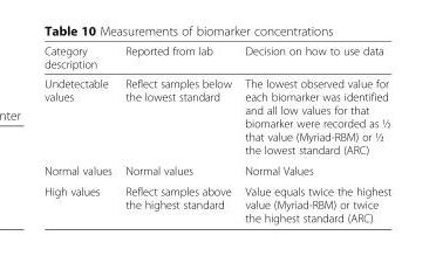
<table><thead><tr><td>Category description</td><td>Reported from lab</td><td>Decision on how to use data</td></tr></thead><tbody><tr><td>Undetectable values</td><td>Reflect samples below the lowest standard</td><td>The lowest observed value for each biomarker was identified and all low values for that biomarker were recorded as ½ that value (Myriad-RBM) or ½ the lowest standard (ARC)</td></tr><tr><td>Normal values</td><td>Normal values</td><td>Normal Values</td></tr><tr><td>High values</td><td>Reflect samples above the highest standard</td><td>Value equals twice the highest value (Myriad-RBM) or twice the highest standard (ARC)</td></tr></tbody></table>